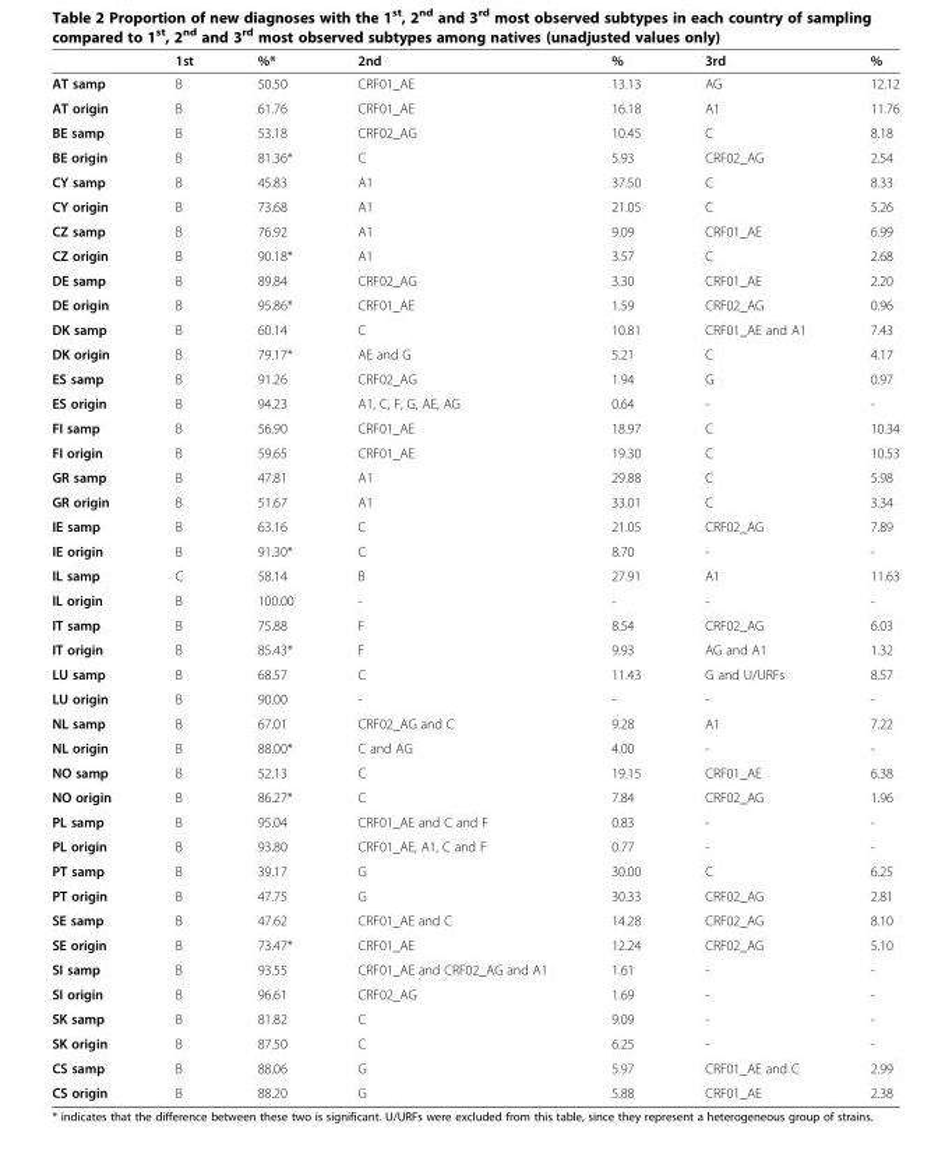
<table><thead><tr><td></td><td>1st</td><td>%*</td><td>2nd</td><td>%</td><td>3rd</td><td>%</td></tr></thead><tbody><tr><td>AT samp</td><td>B</td><td>50.50</td><td>CRF01_AE</td><td>13.13</td><td>AG</td><td>12.12</td></tr><tr><td>AT origin</td><td>B</td><td>61.76</td><td>CRF01_AE</td><td>16.18</td><td>A1</td><td>11.76</td></tr><tr><td>BE samp</td><td>B</td><td>53.18</td><td>CRF02_AG</td><td>10.45</td><td>C</td><td>8.18</td></tr><tr><td>BE origin</td><td>B</td><td>81.36*</td><td>C</td><td>5.93</td><td>CRF02_AG</td><td>2.54</td></tr><tr><td>CY samp</td><td>B</td><td>45.83</td><td>A1</td><td>37.50</td><td>C</td><td>8.33</td></tr><tr><td>CY origin</td><td>B</td><td>73.68</td><td>A1</td><td>21.05</td><td>C</td><td>5.26</td></tr><tr><td>CZ samp</td><td>B</td><td>76.92</td><td>A1</td><td>9.09</td><td>CRF01_AE</td><td>6.99</td></tr><tr><td>CZ origin</td><td>B</td><td>90.18*</td><td>A1</td><td>3.57</td><td>C</td><td>2.68</td></tr><tr><td>DE samp</td><td>B</td><td>89.84</td><td>CRF02_AG</td><td>3.30</td><td>CRF01_AE</td><td>2.20</td></tr><tr><td>DE origin</td><td>B</td><td>95.86*</td><td>CRF01_AE</td><td>1.59</td><td>CRF02_AG</td><td>0.96</td></tr><tr><td>DK samp</td><td>B</td><td>60.14</td><td>C</td><td>10.81</td><td>CRF01_AE and A1</td><td>7.43</td></tr><tr><td>DK origin</td><td>B</td><td>79.17*</td><td>AE and G</td><td>5.21</td><td>C</td><td>4.17</td></tr><tr><td>ES samp</td><td>B</td><td>91.26</td><td>CRF02_AG</td><td>1.94</td><td>G</td><td>0.97</td></tr><tr><td>ES origin</td><td>B</td><td>94.23</td><td>A1, C, F, G, AE, AG</td><td>0.64</td><td>-</td><td>-</td></tr><tr><td>FI samp</td><td>B</td><td>56.90</td><td>CRF01_AE</td><td>18.97</td><td>C</td><td>10.34</td></tr><tr><td>FI origin</td><td>B</td><td>59.65</td><td>CRF01_AE</td><td>19.30</td><td>C</td><td>10.53</td></tr><tr><td>GR samp</td><td>B</td><td>47.81</td><td>A1</td><td>29.88</td><td>C</td><td>5.98</td></tr><tr><td>GR origin</td><td>B</td><td>51.67</td><td>A1</td><td>33.01</td><td>C</td><td>3.34</td></tr><tr><td>IE samp</td><td>B</td><td>63.16</td><td>C</td><td>21.05</td><td>CRF02_AG</td><td>7.89</td></tr><tr><td>IE origin</td><td>B</td><td>91.30*</td><td>C</td><td>8.70</td><td>-</td><td>-</td></tr><tr><td>IL samp</td><td>C</td><td>58.14</td><td>B</td><td>27.91</td><td>A1</td><td>11.63</td></tr><tr><td>IL origin</td><td>B</td><td>100.00</td><td>-</td><td>-</td><td>-</td><td>-</td></tr><tr><td>IT samp</td><td>B</td><td>75.88</td><td>F</td><td>8.54</td><td>CRF02_AG</td><td>6.03</td></tr><tr><td>IT origin</td><td>B</td><td>85.43*</td><td>F</td><td>9.93</td><td>AG and A1</td><td>1.32</td></tr><tr><td>LU samp</td><td>B</td><td>68.57</td><td>C</td><td>11.43</td><td>G and U/URFs</td><td>8.57</td></tr><tr><td>LU origin</td><td>B</td><td>90.00</td><td>-</td><td>-</td><td>-</td><td>-</td></tr><tr><td>NL samp</td><td>B</td><td>67.01</td><td>CRF02_AG and C</td><td>9.28</td><td>A1</td><td>7.22</td></tr><tr><td>NL origin</td><td>B</td><td>88.00*</td><td>C and AG</td><td>4.00</td><td>-</td><td>-</td></tr><tr><td>NO samp</td><td>B</td><td>52.13</td><td>C</td><td>19.15</td><td>CRF01_AE</td><td>6.38</td></tr><tr><td>NO origin</td><td>B</td><td>86.27*</td><td>C</td><td>7.84</td><td>CRF02_AG</td><td>1.96</td></tr><tr><td>PL samp</td><td>B</td><td>95.04</td><td>CRF01_AE and C and F</td><td>0.83</td><td>-</td><td>-</td></tr><tr><td>PL origin</td><td>B</td><td>93.80</td><td>CRF01_AE, A1, C and F</td><td>0.77</td><td>-</td><td>-</td></tr><tr><td>PT samp</td><td>B</td><td>39.17</td><td>G</td><td>30.00</td><td>C</td><td>6.25</td></tr><tr><td>PT origin</td><td>B</td><td>47.75</td><td>G</td><td>30.33</td><td>CRF02_AG</td><td>2.81</td></tr><tr><td>SE samp</td><td>B</td><td>47.62</td><td>CRF01_AE and C</td><td>14.28</td><td>CRF02_AG</td><td>8.10</td></tr><tr><td>SE origin</td><td>B</td><td>73.47*</td><td>CRF01_AE</td><td>12.24</td><td>CRF02_AG</td><td>5.10</td></tr><tr><td>SI samp</td><td>B</td><td>93.55</td><td>CRF01_AE and CRF02_AG and A1</td><td>1.61</td><td>-</td><td>-</td></tr><tr><td>SI origin</td><td>B</td><td>96.61</td><td>CRF02_AG</td><td>1.69</td><td>-</td><td>-</td></tr><tr><td>SK samp</td><td>B</td><td>81.82</td><td>C</td><td>9.09</td><td>-</td><td>-</td></tr><tr><td>SK origin</td><td>B</td><td>87.50</td><td>C</td><td>6.25</td><td>-</td><td>-</td></tr><tr><td>CS samp</td><td>B</td><td>88.06</td><td>G</td><td>5.97</td><td>CRF01_AE and C</td><td>2.99</td></tr><tr><td>CS origin</td><td>B</td><td>88.20</td><td>G</td><td>5.88</td><td>CRF01_AE</td><td>2.38</td></tr></tbody></table>